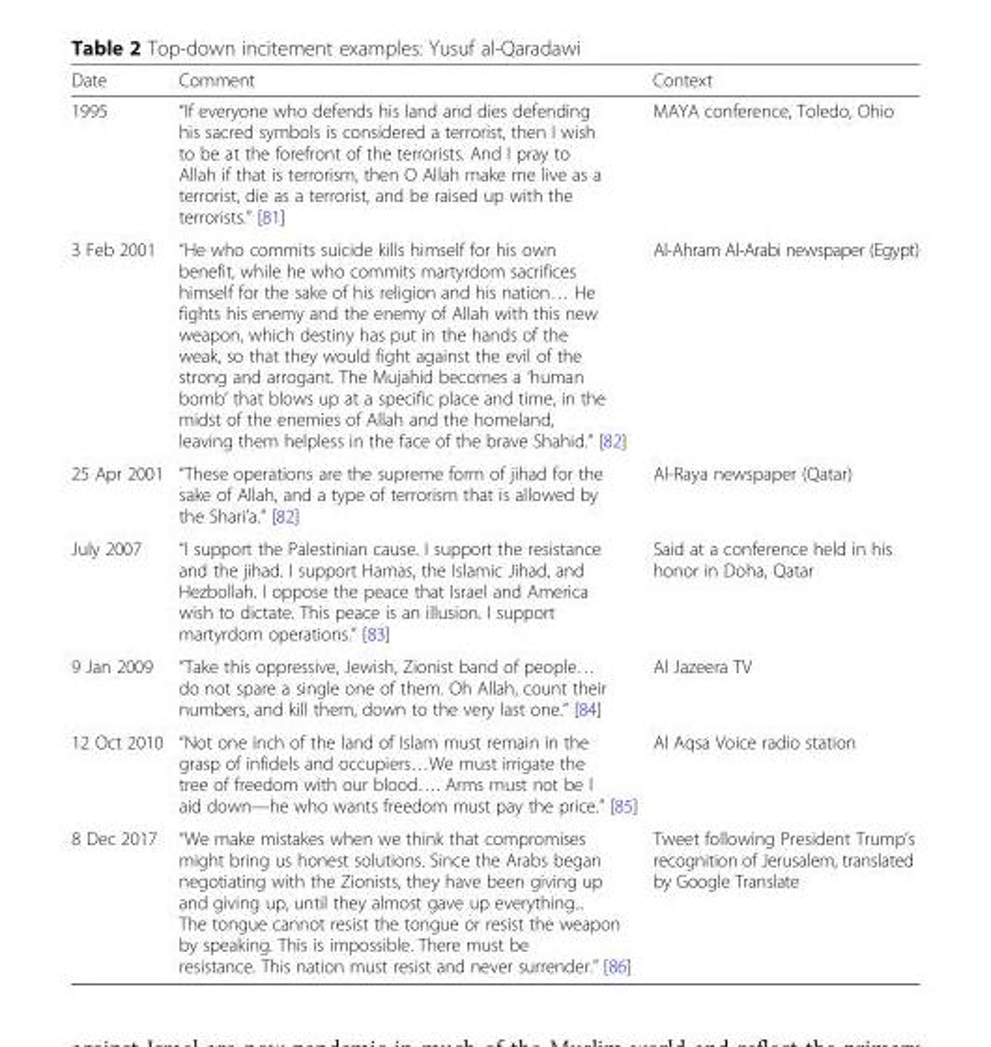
<table><thead><tr><td>Date</td><td>Comment</td><td>Context</td></tr></thead><tbody><tr><td>1995</td><td>“If everyone who defends his land and dies defending his sacred symbols is considered a terrorist, then I wish to be at the forefront of the terrorists. And I pray to Allah if that is terrorism, then O Allah make me live as a terrorist, die as a terrorist, and be raised up with the terrorists.” [81]</td><td>MAYA conference, Toledo, Ohio</td></tr><tr><td>3 Feb 2001</td><td>“He who commits suicide kills himself for his own benefit, while he who commits martyrdom sacrifices himself for the sake of his religion and his nation… He fights his enemy and the enemy of Allah with this new weapon, which destiny has put in the hands of the weak, so that they would fight against the evil of the strong and arrogant. The Mujahid becomes a ‘human bomb’ that blows up at a specific place and time, in the midst of the enemies of Allah and the homeland, leaving them helpless in the face of the brave Shahid.” [82]</td><td>Al-Ahram Al-Arabi newspaper (Egypt)</td></tr><tr><td>25 Apr 2001</td><td>“These operations are the supreme form of jihad for the sake of Allah, and a type of terrorism that is allowed by the Shari’a.” [82]</td><td>Al-Raya newspaper (Qatar)</td></tr><tr><td>July 2007</td><td>“I support the Palestinian cause. I support the resistance and the jihad. I support Hamas, the Islamic Jihad, and Hezbollah. I oppose the peace that Israel and America wish to dictate. This peace is an illusion. I support martyrdom operations.” [83]</td><td>Said at a conference held in his honor in Doha, Qatar</td></tr><tr><td>9 Jan 2009</td><td>“Take this oppressive, Jewish, Zionist band of people… do not spare a single one of them. Oh Allah, count their numbers, and kill them, down to the very last one.” [84]</td><td>Al Jazeera TV</td></tr><tr><td>12 Oct 2010</td><td>“Not one inch of the land of Islam must remain in the grasp of infidels and occupiers…We must irrigate the tree of freedom with our blood…. Arms must not be l aid down—he who wants freedom must pay the price.” [85]</td><td>Al Aqsa Voice radio station</td></tr><tr><td>8 Dec 2017</td><td>“We make mistakes when we think that compromises might bring us honest solutions. Since the Arabs began negotiating with the Zionists, they have been giving up and giving up, until they almost gave up everything... The tongue cannot resist the tongue or resist the weapon by speaking. This is impossible. There must be resistance. This nation must resist and never surrender.” [86]</td><td>Tweet following President Trump’s recognition of Jerusalem, translated by Google Translate</td></tr></tbody></table>